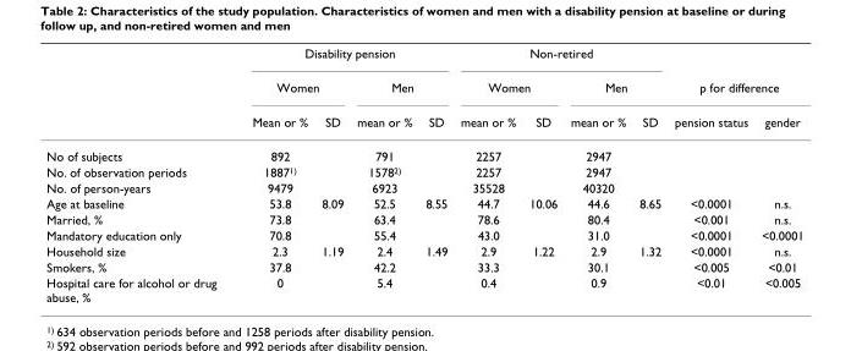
<table><thead><tr><td rowspan="3"></td><td colspan="4">Disability pension</td><td colspan="4">Non-retired</td><td></td><td></td></tr><tr><td colspan="2">Women</td><td colspan="2">Men</td><td colspan="2">Women</td><td colspan="2">Men</td><td colspan="2">p for difference</td></tr><tr><td>Mean or %</td><td>SD</td><td>mean or %</td><td>SD</td><td>mean or %</td><td>SD</td><td>mean or %</td><td>SD</td><td>pension status</td><td>gender</td></tr></thead><tbody><tr><td>No of subjects</td><td>892</td><td></td><td>791</td><td></td><td>2257</td><td></td><td>2947</td><td></td><td></td><td></td></tr><tr><td>No. of observation periods</td><td>18871)</td><td></td><td>15782)</td><td></td><td>2257</td><td></td><td>2947</td><td></td><td></td><td></td></tr><tr><td>No. of person-years</td><td>9479</td><td></td><td>6923</td><td></td><td>35528</td><td></td><td>40320</td><td></td><td></td><td></td></tr><tr><td>Age at baseline</td><td>53.8</td><td>8.09</td><td>52.5</td><td>8.55</td><td>44.7</td><td>10.06</td><td>44.6</td><td>8.65</td><td>&lt;0.0001</td><td>n.s.</td></tr><tr><td>Married, %</td><td>73.8</td><td></td><td>63.4</td><td></td><td>78.6</td><td></td><td>80.4</td><td></td><td>&lt;0.001</td><td>n.s.</td></tr><tr><td>Mandatory education only</td><td>70.8</td><td></td><td>55.4</td><td></td><td>43.0</td><td></td><td>31.0</td><td></td><td>&lt;0.0001</td><td>&lt;0.0001</td></tr><tr><td>Household size</td><td>2.3</td><td>1.19</td><td>2.4</td><td>1.49</td><td>2.9</td><td>1.22</td><td>2.9</td><td>1.32</td><td>&lt;0.0001</td><td>n.s.</td></tr><tr><td>Smokers, %</td><td>37.8</td><td></td><td>42.2</td><td></td><td>33.3</td><td></td><td>30.1</td><td></td><td>&lt;0.005</td><td>&lt;0.01</td></tr><tr><td>Hospital care for alcohol or drug abuse, %</td><td>0</td><td></td><td>5.4</td><td></td><td>0.4</td><td></td><td>0.9</td><td></td><td>&lt;0.01</td><td>&lt;0.005</td></tr></tbody></table>